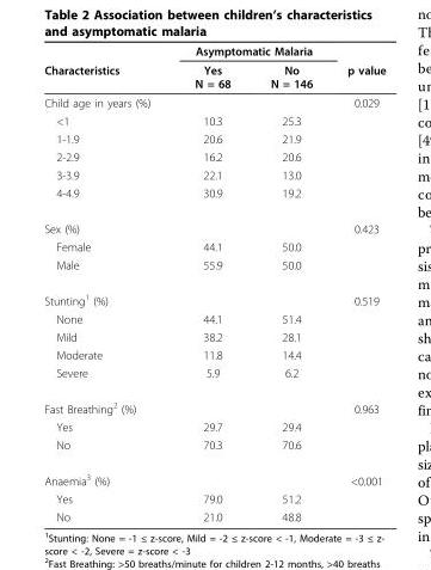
<table><thead><tr><td rowspan="2">Characteristics</td><td colspan="2">Asymptomatic Malaria</td><td rowspan="2">p value</td></tr><tr><td>Yes N = 68</td><td>No N = 146</td></tr></thead><tbody><tr><td>Child age in years (%)</td><td></td><td></td><td>0.029</td></tr><tr><td>&lt;1</td><td>10.3</td><td>25.3</td><td></td></tr><tr><td>1-1.9</td><td>20.6</td><td>21.9</td><td></td></tr><tr><td>2-2.9</td><td>16.2</td><td>20.6</td><td></td></tr><tr><td>3-3.9</td><td>22.1</td><td>13.0</td><td></td></tr><tr><td>4-4.9</td><td>30.9</td><td>19.2</td><td></td></tr><tr><td>Sex (%)</td><td></td><td></td><td>0.423</td></tr><tr><td>Female</td><td>44.1</td><td>50.0</td><td></td></tr><tr><td>Male</td><td>55.9</td><td>50.0</td><td></td></tr><tr><td>Stunting<sup>1</sup> (%)</td><td></td><td></td><td>0.519</td></tr><tr><td>None</td><td>44.1</td><td>51.4</td><td></td></tr><tr><td>Mild</td><td>38.2</td><td>28.1</td><td></td></tr><tr><td>Moderate</td><td>11.8</td><td>14.4</td><td></td></tr><tr><td>Severe</td><td>5.9</td><td>6.2</td><td></td></tr><tr><td>Fast Breathing<sup>2</sup> (%)</td><td></td><td></td><td>0.963</td></tr><tr><td>Yes</td><td>29.7</td><td>29.4</td><td></td></tr><tr><td>No</td><td>70.3</td><td>70.6</td><td></td></tr><tr><td>Anaemia<sup>3</sup> (%)</td><td></td><td></td><td>&lt;0.001</td></tr><tr><td>Yes</td><td>79.0</td><td>51.2</td><td></td></tr><tr><td>No</td><td>21.0</td><td>48.8</td><td></td></tr></tbody></table>